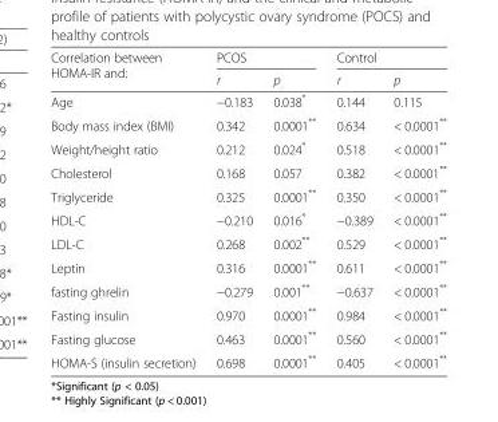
<table><thead><tr><td rowspan="2">Correlation between HOMA-IR and:</td><td colspan="2">PCOS</td><td colspan="2">Control</td></tr><tr><td>r</td><td>p</td><td>r</td><td>p</td></tr></thead><tbody><tr><td>Age</td><td>−0.183</td><td>0.038*</td><td>0.144</td><td>0.115</td></tr><tr><td>Body mass index (BMI)</td><td>0.342</td><td>0.0001**</td><td>0.634</td><td>&lt; 0.0001**</td></tr><tr><td>Weight/height ratio</td><td>0.212</td><td>0.024*</td><td>0.518</td><td>&lt; 0.0001**</td></tr><tr><td>Cholesterol</td><td>0.168</td><td>0.057</td><td>0.382</td><td>&lt; 0.0001**</td></tr><tr><td>Triglyceride</td><td>0.325</td><td>0.0001**</td><td>0.350</td><td>&lt; 0.0001**</td></tr><tr><td>HDL-C</td><td>−0.210</td><td>0.016*</td><td>−0.389</td><td>&lt; 0.0001**</td></tr><tr><td>LDL-C</td><td>0.268</td><td>0.002**</td><td>0.529</td><td>&lt; 0.0001**</td></tr><tr><td>Leptin</td><td>0.316</td><td>0.0001**</td><td>0.611</td><td>&lt; 0.0001**</td></tr><tr><td>fasting ghrelin</td><td>−0.279</td><td>0.001**</td><td>−0.637</td><td>&lt; 0.0001**</td></tr><tr><td>Fasting insulin</td><td>0.970</td><td>0.0001**</td><td>0.984</td><td>&lt; 0.0001**</td></tr><tr><td>Fasting glucose</td><td>0.463</td><td>0.0001**</td><td>0.560</td><td>&lt; 0.0001**</td></tr><tr><td>HOMA-S (insulin secretion)</td><td>0.698</td><td>0.0001**</td><td>0.405</td><td>&lt; 0.0001**</td></tr></tbody></table>